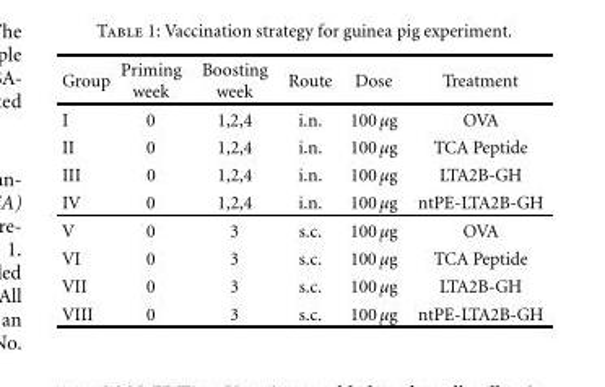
<table><thead><tr><td>Group</td><td>Priming week</td><td>Boosting week</td><td>Route</td><td>Dose</td><td>Treatment</td></tr></thead><tbody><tr><td>I</td><td>0</td><td>1,2,4</td><td>i.n.</td><td>100 μg</td><td>OVA</td></tr><tr><td>II</td><td>0</td><td>1,2,4</td><td>i.n.</td><td>100 μg</td><td>TCA Peptide</td></tr><tr><td>III</td><td>0</td><td>1,2,4</td><td>i.n.</td><td>100 μg</td><td>LTA2B-GH</td></tr><tr><td>IV</td><td>0</td><td>1,2,4</td><td>i.n.</td><td>100 μg</td><td>ntPE-LTA2B-GH</td></tr><tr><td>V</td><td>0</td><td>3</td><td>s.c.</td><td>100 μg</td><td>OVA</td></tr><tr><td>VI</td><td>0</td><td>3</td><td>s.c.</td><td>100 μg</td><td>TCA Peptide</td></tr><tr><td>VII</td><td>0</td><td>3</td><td>s.c.</td><td>100 μg</td><td>LTA2B-GH</td></tr><tr><td>VIII</td><td>0</td><td>3</td><td>s.c.</td><td>100 μg</td><td>ntPE-LTA2B-GH</td></tr></tbody></table>